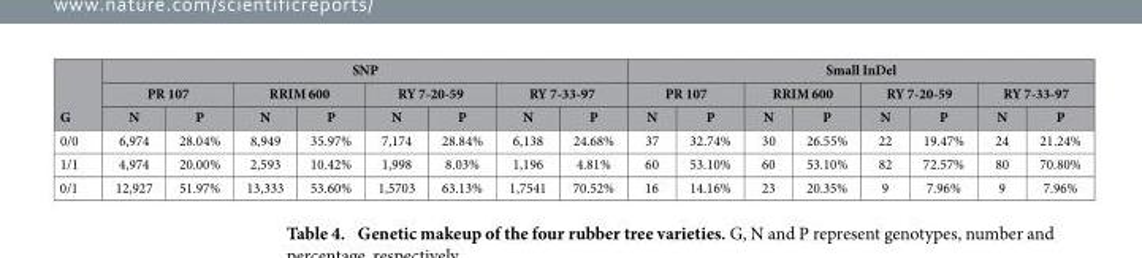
<table><thead><tr><td rowspan="3">G</td><td colspan="8">SNP</td><td colspan="8">Small InDel</td></tr><tr><td colspan="2">PR 107</td><td colspan="2">RRIM 600</td><td colspan="2">RY 7-20-59</td><td colspan="2">RY 7-33-97</td><td colspan="2">PR 107</td><td colspan="2">RRIM 600</td><td colspan="2">RY 7-20-59</td><td colspan="2">RY 7-33-97</td></tr><tr><td>N</td><td>P</td><td>N</td><td>P</td><td>N</td><td>P</td><td>N</td><td>P</td><td>N</td><td>P</td><td>N</td><td>P</td><td>N</td><td>P</td><td>N</td><td>P</td></tr></thead><tbody><tr><td>0/0</td><td>6,974</td><td>28.04%</td><td>8,949</td><td>35.97%</td><td>7,174</td><td>28.84%</td><td>6,138</td><td>24.68%</td><td>37</td><td>32.74%</td><td>30</td><td>26.55%</td><td>22</td><td>19.47%</td><td>24</td><td>21.24%</td></tr><tr><td>1/1</td><td>4,974</td><td>20.00%</td><td>2,593</td><td>10.42%</td><td>1,998</td><td>8.03%</td><td>1,196</td><td>4.81%</td><td>60</td><td>53.10%</td><td>60</td><td>53.10%</td><td>82</td><td>72.57%</td><td>80</td><td>70.80%</td></tr><tr><td>0/1</td><td>12,927</td><td>51.97%</td><td>13,333</td><td>53.60%</td><td>1,5703</td><td>63.13%</td><td>1,7541</td><td>70.52%</td><td>16</td><td>14.16%</td><td>23</td><td>20.35%</td><td>9</td><td>7.96%</td><td>9</td><td>7.96%</td></tr></tbody></table>